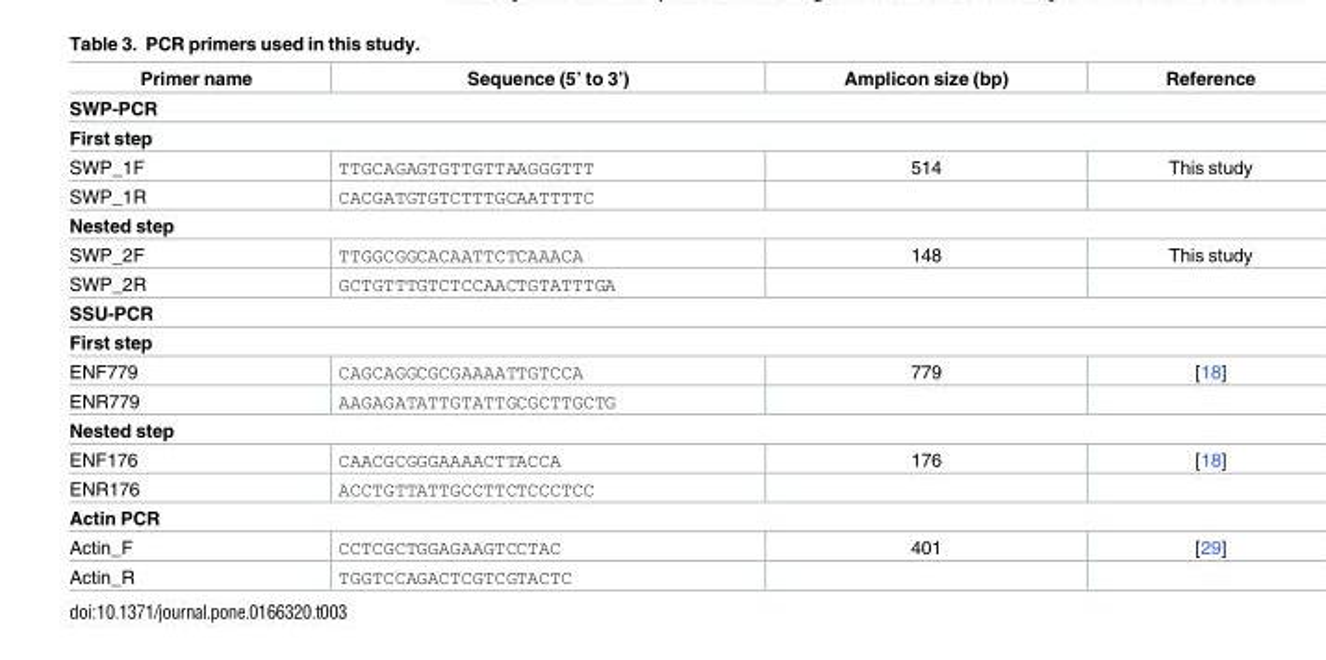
<table><thead><tr><td>Primer name</td><td>Sequence (5’ to 3’)</td><td>Amplicon size (bp)</td><td>Reference</td></tr></thead><tbody><tr><td colspan="4">SWP-PCR</td></tr><tr><td colspan="4">First step</td></tr><tr><td>SWP_1F</td><td>TTGCAGAGTGTTGTTAAGGGTTT</td><td>514</td><td>This study</td></tr><tr><td>SWP_1R</td><td>CACGATGTGTCTTTGCAATTTTC</td><td></td><td></td></tr><tr><td colspan="4">Nested step</td></tr><tr><td>SWP_2F</td><td>TTGGCGGCACAATTCTCAAACA</td><td>148</td><td>This study</td></tr><tr><td>SWP_2R</td><td>GCTGTTTGTCTCCAACTGTATTTGA</td><td></td><td></td></tr><tr><td colspan="4">SSU-PCR</td></tr><tr><td colspan="4">First step</td></tr><tr><td>ENF779</td><td>CAGCAGGCGCGAAAATTGTCCA</td><td>779</td><td>[18]</td></tr><tr><td>ENR779</td><td>AAGAGATATTGTATTGCGCTTGCTG</td><td></td><td></td></tr><tr><td colspan="4">Nested step</td></tr><tr><td>ENF176</td><td>CAACGCGGGAAAACTTACCA</td><td>176</td><td>[18]</td></tr><tr><td>ENR176</td><td>ACCTGTTATTGCCTTCTCCCTCC</td><td></td><td></td></tr><tr><td colspan="4">Actin PCR</td></tr><tr><td>Actin_F</td><td>CCTCGCTGGAGAAGTCCTAC</td><td>401</td><td>[29]</td></tr><tr><td>Actin_R</td><td>TGGTCCAGACTCGTCGTACTC</td><td></td><td></td></tr></tbody></table>